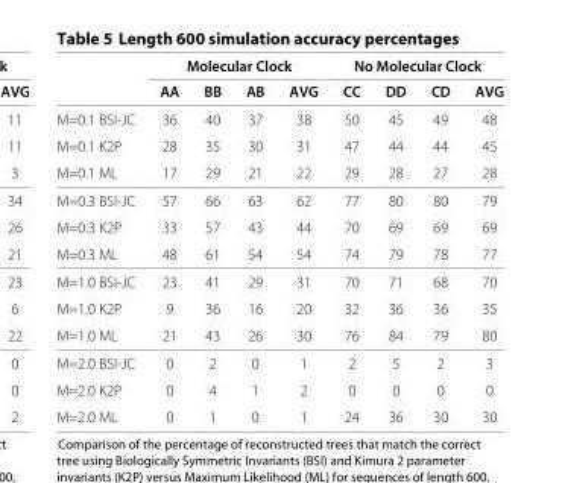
<table><thead><tr><td rowspan="2"></td><td colspan="4">Molecular Clock</td><td colspan="4">No Molecular Clock</td></tr><tr><td>AA</td><td>BB</td><td>AB</td><td>AVG</td><td>CC</td><td>DD</td><td>CD</td><td>AVG</td></tr></thead><tbody><tr><td>M=0.1 BSI-JC</td><td>36</td><td>40</td><td>37</td><td>38</td><td>50</td><td>45</td><td>49</td><td>48</td></tr><tr><td>M=0.1 K2P</td><td>28</td><td>35</td><td>30</td><td>31</td><td>47</td><td>44</td><td>44</td><td>45</td></tr><tr><td>M=0.1 ML</td><td>17</td><td>29</td><td>21</td><td>22</td><td>29</td><td>28</td><td>27</td><td>28</td></tr><tr><td>M=0.3 BSI-JC</td><td>57</td><td>66</td><td>63</td><td>62</td><td>77</td><td>80</td><td>80</td><td>79</td></tr><tr><td>M=0.3 K2P</td><td>33</td><td>57</td><td>43</td><td>44</td><td>70</td><td>69</td><td>69</td><td>69</td></tr><tr><td>M=0.3 ML</td><td>48</td><td>61</td><td>54</td><td>54</td><td>74</td><td>79</td><td>78</td><td>77</td></tr><tr><td>M=1.0 BSI-JC</td><td>23</td><td>41</td><td>29</td><td>31</td><td>70</td><td>71</td><td>68</td><td>70</td></tr><tr><td>M=1.0 K2P</td><td>9</td><td>36</td><td>16</td><td>20</td><td>32</td><td>36</td><td>36</td><td>35</td></tr><tr><td>M=1.0 ML</td><td>21</td><td>43</td><td>26</td><td>30</td><td>76</td><td>84</td><td>79</td><td>80</td></tr><tr><td>M=2.0 BSI-JC</td><td>0</td><td>2</td><td>0</td><td>1</td><td>2</td><td>5</td><td>2</td><td>3</td></tr><tr><td>M=2.0 K2P</td><td>0</td><td>4</td><td>1</td><td>2</td><td>0</td><td>0</td><td>0</td><td>0</td></tr><tr><td>M=2.0 ML</td><td>0</td><td>1</td><td>0</td><td>1</td><td>24</td><td>36</td><td>30</td><td>30</td></tr></tbody></table>